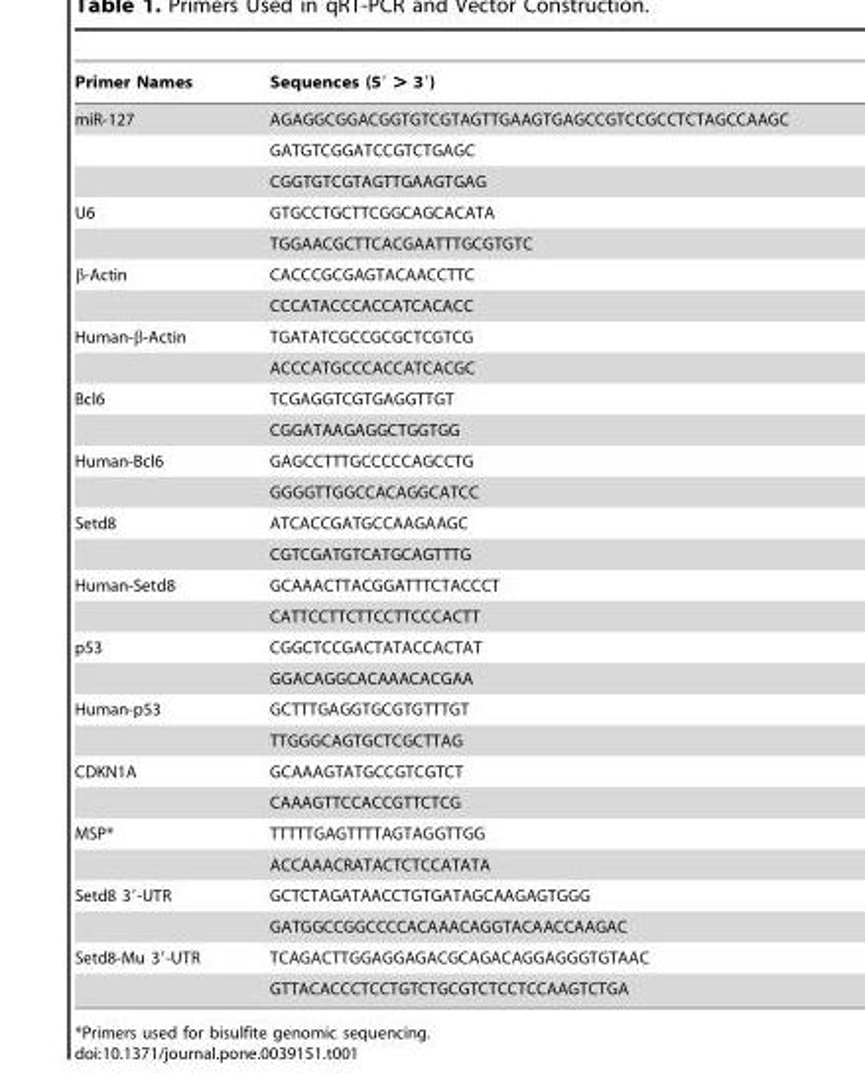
<table><thead><tr><td>Primer Names</td><td>Sequences (59 . . 39)</td></tr></thead><tbody><tr><td rowspan="3">miR-127</td><td>AGAGGCGGACGGTGTCGTAGTTGAAGTGAGCCGTCCGCCTCTAGCCAAGC</td></tr><tr><td>GATGTCGGATCCGTCTGAGC</td></tr><tr><td>CGGTGTCGTAGTTGAAGTGAG</td></tr><tr><td rowspan="2">U6</td><td>GTGCCTGCTTCGGCAGCACATA</td></tr><tr><td>TGGAACGCTTCACGAATTTGCGTGTC</td></tr><tr><td rowspan="2">β-Actin</td><td>CACCCGCGAGTACAACCTTC</td></tr><tr><td>CCCATACCCACCATCACACC</td></tr><tr><td rowspan="2">Human-β-Actin</td><td>TGATATCGCCGCGCTCGTCG</td></tr><tr><td>ACCCATGCCCACCATCACGC</td></tr><tr><td rowspan="2">Bcl6</td><td>TCGAGGTCGTGAGGTTGT</td></tr><tr><td>CGGATAAGAGGCTGGTGG</td></tr><tr><td rowspan="2">Human-Bcl6</td><td>GAGCCTTTGCCCCCAGCCTG</td></tr><tr><td>GGGGTTGGCCACAGGCATCC</td></tr><tr><td rowspan="2">Setd8</td><td>ATCACCGATGCCAAGAAGC</td></tr><tr><td>CGTCGATGTCATGCAGTTTG</td></tr><tr><td rowspan="2">Human-Setd8</td><td>GCAAACTTACGGATTTCTACCCT</td></tr><tr><td>CATTCCTTCTTCCTTCCCACTT</td></tr><tr><td rowspan="2">p53</td><td>CGGCTCCGACTATACCACTAT</td></tr><tr><td>GGACAGGCACAAACACGAA</td></tr><tr><td rowspan="2">Human-p53</td><td>GCTTTGAGGTGCGTGTTTGT</td></tr><tr><td>TTGGGCAGTGCTCGCTTAG</td></tr><tr><td rowspan="2">CDKN1A</td><td>GCAAAGTATGCCGTCGTCT</td></tr><tr><td>CAAAGTTCCACCGTTCTCG</td></tr><tr><td rowspan="2">MSP*</td><td>TTTTTGAGTTTTAGTAGGTTGG</td></tr><tr><td>ACCAAACRATACTCTCCATATA</td></tr><tr><td rowspan="2">Setd8 3′-UTR</td><td>GCTCTAGATAACCTGTGATAGCAAGAGTGGG</td></tr><tr><td>GATGGCCGGCCCCACAAACAGGTACAACCAAGAC</td></tr><tr><td rowspan="2">Setd8-Mu 3′-UTR</td><td>TCAGACTTGGAGGAGACGCAGACAGGAGGGTGTAAC</td></tr><tr><td>GTTACACCCTCCTGTCTGCGTCTCCTCCAAGTCTGA</td></tr></tbody></table>